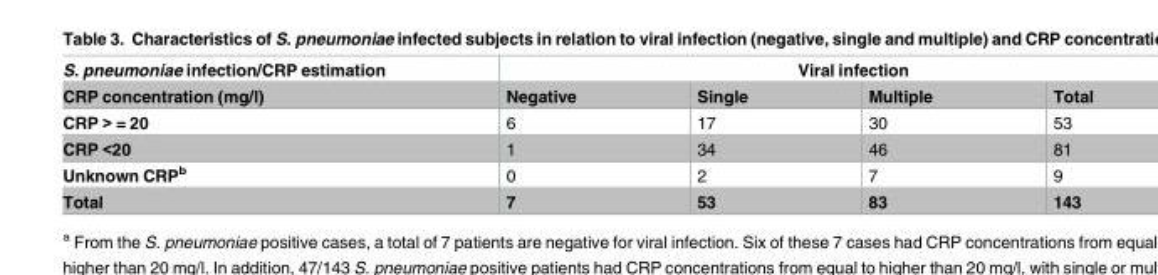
<table><thead><tr><td rowspan="2">S. pneumoniae infection/CRP estimation CRP concentration (mg/l)</td><td colspan="4">Viral infection</td></tr><tr><td>Negative</td><td>Single</td><td>Multiple</td><td>Total</td></tr></thead><tbody><tr><td>CRP &gt; = 20</td><td>6</td><td>17</td><td>30</td><td>53</td></tr><tr><td>CRP &lt;20</td><td>1</td><td>34</td><td>46</td><td>81</td></tr><tr><td>Unknown CRP<sup>b</sup></td><td>0</td><td>2</td><td>7</td><td>9</td></tr><tr><td>Total</td><td>7</td><td>53</td><td>83</td><td>143</td></tr></tbody></table>